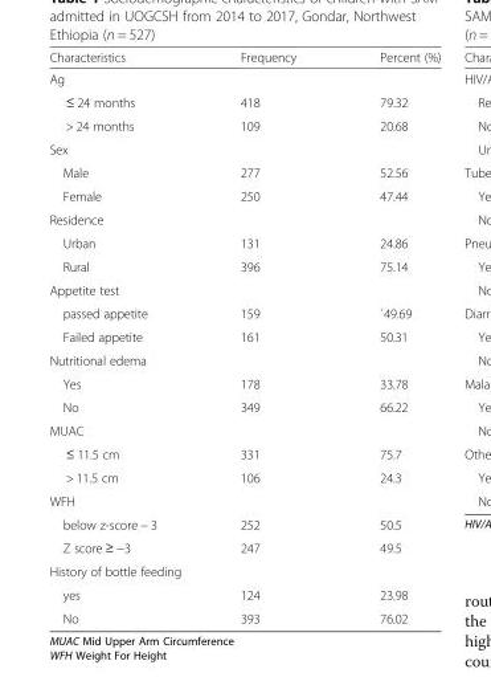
<table><thead><tr><td>Characteristics</td><td>Frequency</td><td>Percent (%)</td></tr></thead><tbody><tr><td colspan="3">Ag</td></tr><tr><td>≤ 24 months</td><td>418</td><td>79.32</td></tr><tr><td>&gt; 24 months</td><td>109</td><td>20.68</td></tr><tr><td colspan="3">Sex</td></tr><tr><td>Male</td><td>277</td><td>52.56</td></tr><tr><td>Female</td><td>250</td><td>47.44</td></tr><tr><td colspan="3">Residence</td></tr><tr><td>Urban</td><td>131</td><td>24.86</td></tr><tr><td>Rural</td><td>396</td><td>75.14</td></tr><tr><td colspan="3">Appetite test</td></tr><tr><td>passed appetite</td><td>159</td><td>`49.69</td></tr><tr><td>Failed appetite</td><td>161</td><td>50.31</td></tr><tr><td colspan="3">Nutritional edema</td></tr><tr><td>Yes</td><td>178</td><td>33.78</td></tr><tr><td>No</td><td>349</td><td>66.22</td></tr><tr><td colspan="3">MUAC</td></tr><tr><td>≤ 11.5 cm</td><td>331</td><td>75.7</td></tr><tr><td>&gt; 11.5 cm</td><td>106</td><td>24.3</td></tr><tr><td colspan="3">WFH</td></tr><tr><td>below z-score − 3</td><td>252</td><td>50.5</td></tr><tr><td>Z score ≥ −3</td><td>247</td><td>49.5</td></tr><tr><td colspan="3">History of bottle feeding</td></tr><tr><td>yes</td><td>124</td><td>23.98</td></tr><tr><td>No</td><td>393</td><td>76.02</td></tr></tbody></table>